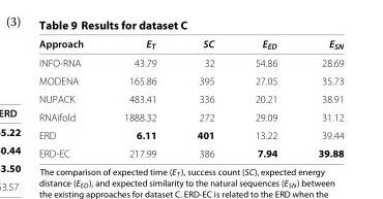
<table><thead><tr><td>Approach</td><td>E<sub>T</sub></td><td>SC</td><td>E<sub>ED</sub></td><td>E<sub>SN</sub></td></tr></thead><tbody><tr><td>INFO-RNA</td><td>43.79</td><td>32</td><td>54.86</td><td>28.69</td></tr><tr><td>MODENA</td><td>165.86</td><td>395</td><td>27.05</td><td>35.73</td></tr><tr><td>NUPACK</td><td>483.41</td><td>336</td><td>20.21</td><td>38.91</td></tr><tr><td>RNAifold</td><td>1888.32</td><td>272</td><td>29.09</td><td>31.12</td></tr><tr><td>ERD</td><td>6.11</td><td>401</td><td>13.22</td><td>39.44</td></tr><tr><td>ERD-EC</td><td>217.99</td><td>386</td><td>7.94</td><td>39.88</td></tr></tbody></table>